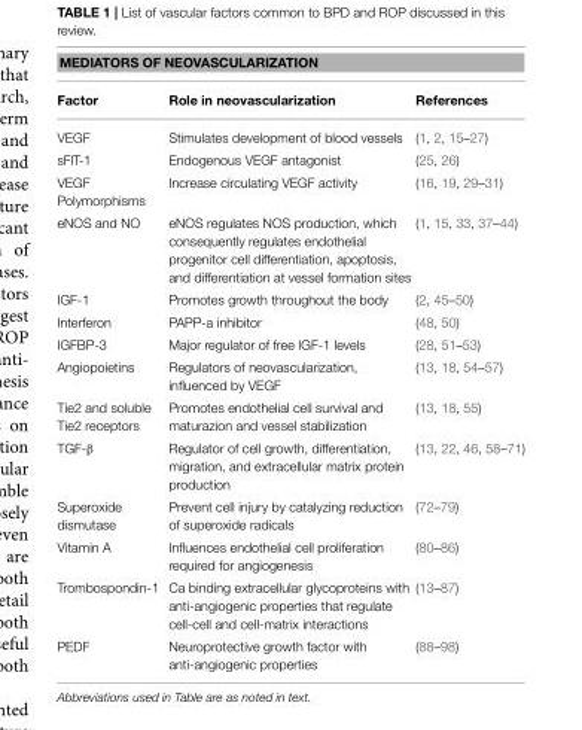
<table><thead><tr><td colspan="3">MEDIATORS OF NEOVASCULARIZATION</td></tr><tr><td>Factor</td><td>Role in neovascularization</td><td>References</td></tr></thead><tbody><tr><td>VEGF</td><td>Stimulates development of blood vessels</td><td>(1, 2, 15–27)</td></tr><tr><td>sFlT-1</td><td>Endogenous VEGF antagonist</td><td>(25, 26)</td></tr><tr><td>VEGF Polymorphisms</td><td>Increase circulating VEGF activity</td><td>(16, 19, 29–31)</td></tr><tr><td>eNOS and NO</td><td>eNOS regulates NOS production, which consequently regulates endothelial progenitor cell differentiation, apoptosis, and differentiation at vessel formation sites</td><td>(1, 15, 33, 37–44)</td></tr><tr><td>IGF-1</td><td>Promotes growth throughout the body</td><td>(2, 45–50)</td></tr><tr><td>Interferon</td><td>PAPP-a inhibitor</td><td>(48, 50)</td></tr><tr><td>IGFBP-3</td><td>Major regulator of free IGF-1 levels</td><td>(28, 51–53)</td></tr><tr><td>Angiopoietins</td><td>Regulators of neovascularization, influenced by VEGF</td><td>(13, 18, 54–57)</td></tr><tr><td>Tie2 and soluble Tie2 receptors</td><td>Promotes endothelial cell survival and maturazion and vessel stabilization</td><td>(13, 18, 55)</td></tr><tr><td>TGF-β</td><td>Regulator of cell growth, differentiation, migration, and extracellular matrix protein production</td><td>(13, 22, 46, 58–71)</td></tr><tr><td>Superoxide dismutase</td><td>Prevent cell injury by catalyzing reduction of superoxide radicals</td><td>(72–79)</td></tr><tr><td>Vitamin A</td><td>Influences endothelial cell proliferation required for angiogenesis</td><td>(80–86)</td></tr><tr><td>Trombospondin-1</td><td>Ca binding extracellular glycoproteins with anti-angiogenic properties that regulate cell-cell and cell-matrix interactions</td><td>(13–87)</td></tr><tr><td>PEDF</td><td>Neuroprotective growth factor with anti-angiogenic properties</td><td>(88–98)</td></tr></tbody></table>